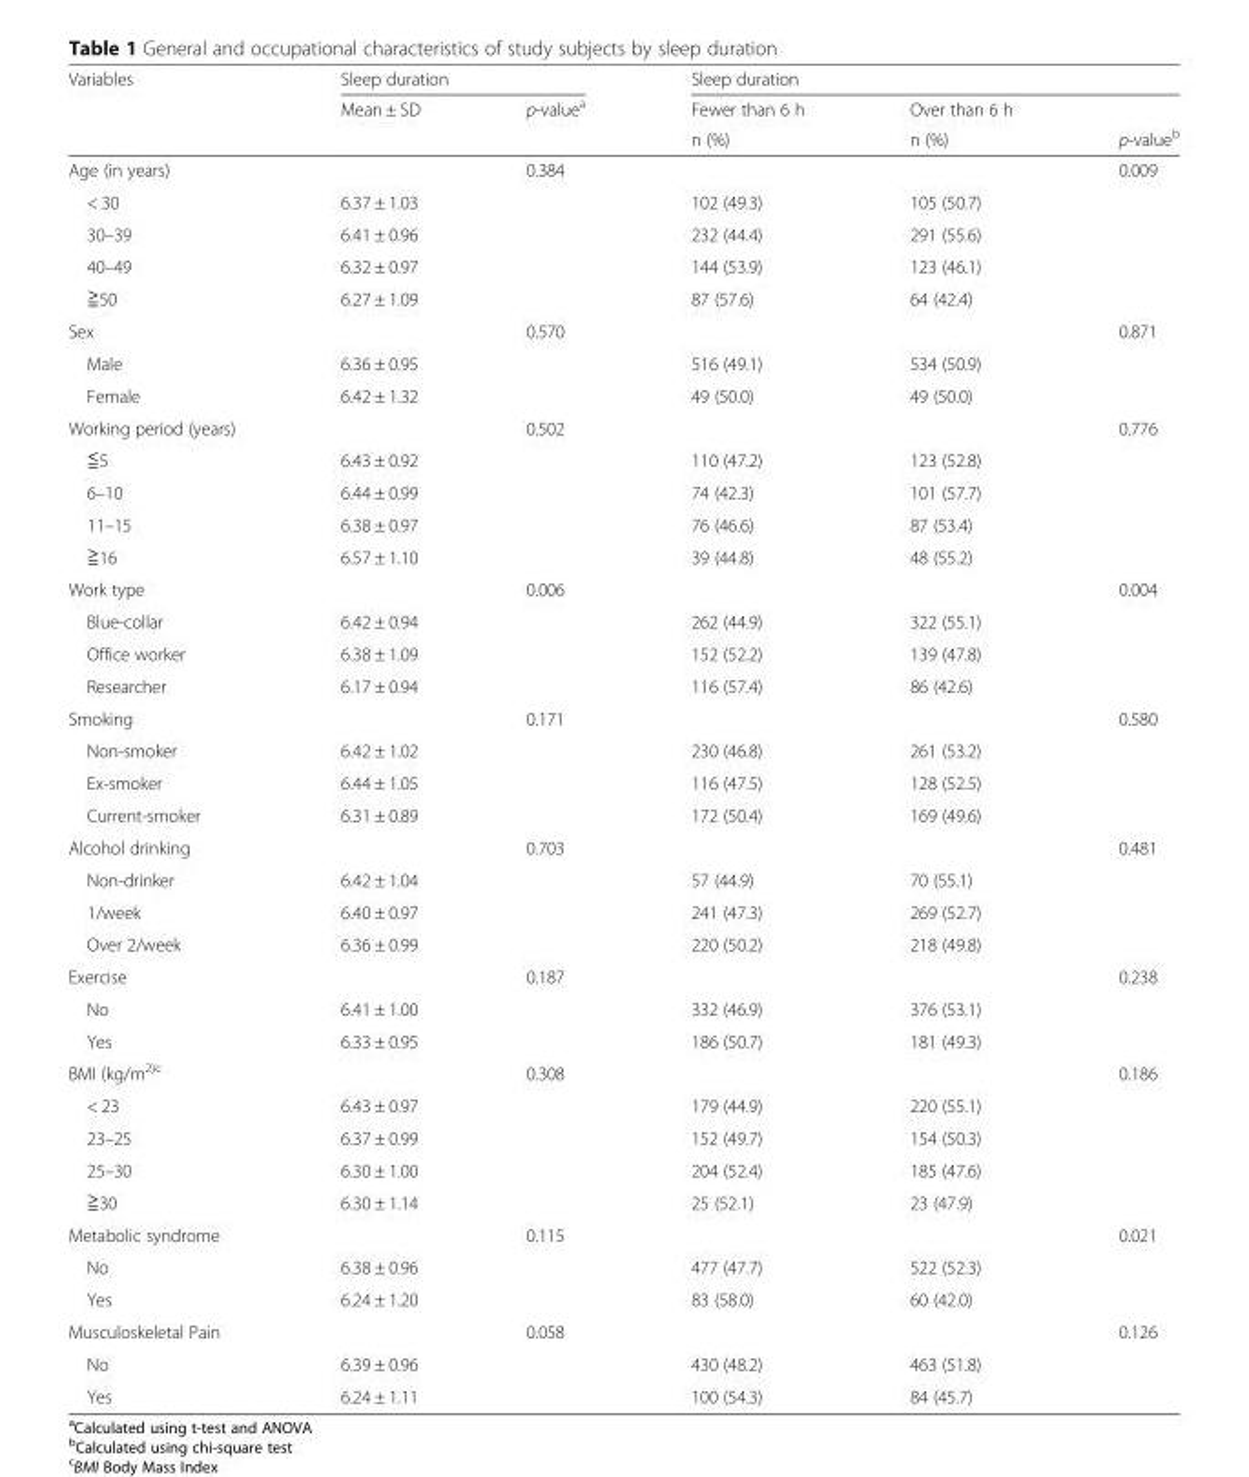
<table><thead><tr><td rowspan="3">Variables</td><td colspan="2">Sleep duration</td><td colspan="3">Sleep duration</td></tr><tr><td rowspan="2">Mean ± SD</td><td rowspan="2">p-value<sup>a</sup></td><td rowspan="2">Fewer than 6 h n (%)</td><td rowspan="2">Over than 6 h n (%)</td><td rowspan="2">p-value<sup>b</sup></td></tr><tr></tr></thead><tbody><tr><td>Age (in years)</td><td></td><td>0.384</td><td colspan="2"></td><td>0.009</td></tr><tr><td>&lt; 30</td><td>6.37 ± 1.03</td><td></td><td>102 (49.3)</td><td>105 (50.7)</td><td></td></tr><tr><td>30–39</td><td>6.41 ± 0.96</td><td></td><td>232 (44.4)</td><td>291 (55.6)</td><td></td></tr><tr><td>40–49</td><td>6.32 ± 0.97</td><td></td><td>144 (53.9)</td><td>123 (46.1)</td><td></td></tr><tr><td>≧50</td><td>6.27 ± 1.09</td><td></td><td>87 (57.6)</td><td>64 (42.4)</td><td></td></tr><tr><td>Sex</td><td></td><td>0.570</td><td colspan="2"></td><td>0.871</td></tr><tr><td>Male</td><td>6.36 ± 0.95</td><td></td><td>516 (49.1)</td><td>534 (50.9)</td><td></td></tr><tr><td>Female</td><td>6.42 ± 1.32</td><td></td><td>49 (50.0)</td><td>49 (50.0)</td><td></td></tr><tr><td>Working period (years)</td><td></td><td>0.502</td><td colspan="2"></td><td>0.776</td></tr><tr><td>≦5</td><td>6.43 ± 0.92</td><td></td><td>110 (47.2)</td><td>123 (52.8)</td><td></td></tr><tr><td>6–10</td><td>6.44 ± 0.99</td><td></td><td>74 (42.3)</td><td>101 (57.7)</td><td></td></tr><tr><td>11–15</td><td>6.38 ± 0.97</td><td></td><td>76 (46.6)</td><td>87 (53.4)</td><td></td></tr><tr><td>≧16</td><td>6.57 ± 1.10</td><td></td><td>39 (44.8)</td><td>48 (55.2)</td><td></td></tr><tr><td>Work type</td><td></td><td>0.006</td><td colspan="2"></td><td>0.004</td></tr><tr><td>Blue-collar</td><td>6.42 ± 0.94</td><td></td><td>262 (44.9)</td><td>322 (55.1)</td><td></td></tr><tr><td>Office worker</td><td>6.38 ± 1.09</td><td></td><td>152 (52.2)</td><td>139 (47.8)</td><td></td></tr><tr><td>Researcher</td><td>6.17 ± 0.94</td><td></td><td>116 (57.4)</td><td>86 (42.6)</td><td></td></tr><tr><td>Smoking</td><td></td><td>0.171</td><td colspan="2"></td><td>0.580</td></tr><tr><td>Non-smoker</td><td>6.42 ± 1.02</td><td></td><td>230 (46.8)</td><td>261 (53.2)</td><td></td></tr><tr><td>Ex-smoker</td><td>6.44 ± 1.05</td><td></td><td>116 (47.5)</td><td>128 (52.5)</td><td></td></tr><tr><td>Current-smoker</td><td>6.31 ± 0.89</td><td></td><td>172 (50.4)</td><td>169 (49.6)</td><td></td></tr><tr><td>Alcohol drinking</td><td></td><td>0.703</td><td colspan="2"></td><td>0.481</td></tr><tr><td>Non-drinker</td><td>6.42 ± 1.04</td><td></td><td>57 (44.9)</td><td>70 (55.1)</td><td></td></tr><tr><td>1/week</td><td>6.40 ± 0.97</td><td></td><td>241 (47.3)</td><td>269 (52.7)</td><td></td></tr><tr><td>Over 2/week</td><td>6.36 ± 0.99</td><td></td><td>220 (50.2)</td><td>218 (49.8)</td><td></td></tr><tr><td>Exercise</td><td></td><td>0.187</td><td colspan="2"></td><td>0.238</td></tr><tr><td>No</td><td>6.41 ± 1.00</td><td></td><td>332 (46.9)</td><td>376 (53.1)</td><td></td></tr><tr><td>Yes</td><td>6.33 ± 0.95</td><td></td><td>186 (50.7)</td><td>181 (49.3)</td><td></td></tr><tr><td>BMI (kg/m<sup>2)c</sup></td><td></td><td>0.308</td><td colspan="2"></td><td>0.186</td></tr><tr><td>&lt; 23</td><td>6.43 ± 0.97</td><td></td><td>179 (44.9)</td><td>220 (55.1)</td><td></td></tr><tr><td>23–25</td><td>6.37 ± 0.99</td><td></td><td>152 (49.7)</td><td>154 (50.3)</td><td></td></tr><tr><td>25–30</td><td>6.30 ± 1.00</td><td></td><td>204 (52.4)</td><td>185 (47.6)</td><td></td></tr><tr><td>≧30</td><td>6.30 ± 1.14</td><td></td><td>25 (52.1)</td><td>23 (47.9)</td><td></td></tr><tr><td>Metabolic syndrome</td><td></td><td>0.115</td><td colspan="2"></td><td>0.021</td></tr><tr><td>No</td><td>6.38 ± 0.96</td><td></td><td>477 (47.7)</td><td>522 (52.3)</td><td></td></tr><tr><td>Yes</td><td>6.24 ± 1.20</td><td></td><td>83 (58.0)</td><td>60 (42.0)</td><td></td></tr><tr><td>Musculoskeletal Pain</td><td></td><td>0.058</td><td colspan="2"></td><td>0.126</td></tr><tr><td>No</td><td>6.39 ± 0.96</td><td></td><td>430 (48.2)</td><td>463 (51.8)</td><td></td></tr><tr><td>Yes</td><td>6.24 ± 1.11</td><td></td><td>100 (54.3)</td><td>84 (45.7)</td><td></td></tr></tbody></table>